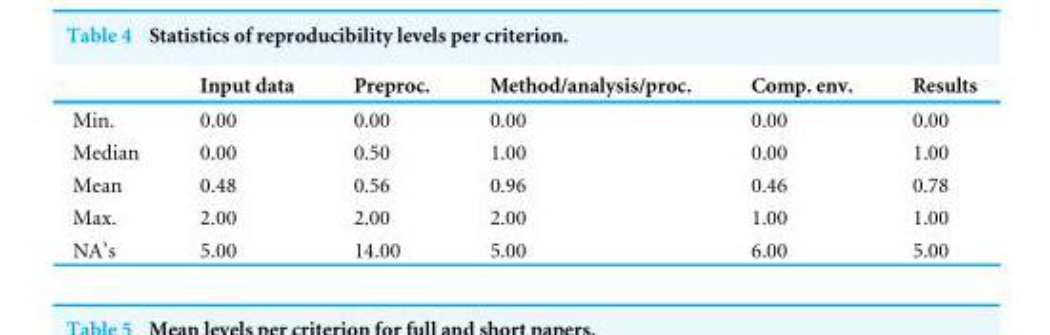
<table><thead><tr><td></td><td>Input data</td><td>Preproc.</td><td>Method/analysis/proc.</td><td>Comp. env.</td><td>Results</td></tr></thead><tbody><tr><td>Min.</td><td>0.00</td><td>0.00</td><td>0.00</td><td>0.00</td><td>0.00</td></tr><tr><td>Median</td><td>0.00</td><td>0.50</td><td>1.00</td><td>0.00</td><td>1.00</td></tr><tr><td>Mean</td><td>0.48</td><td>0.56</td><td>0.96</td><td>0.46</td><td>0.78</td></tr><tr><td>Max.</td><td>2.00</td><td>2.00</td><td>2.00</td><td>1.00</td><td>1.00</td></tr><tr><td>NA’s</td><td>5.00</td><td>14.00</td><td>5.00</td><td>6.00</td><td>5.00</td></tr></tbody></table>